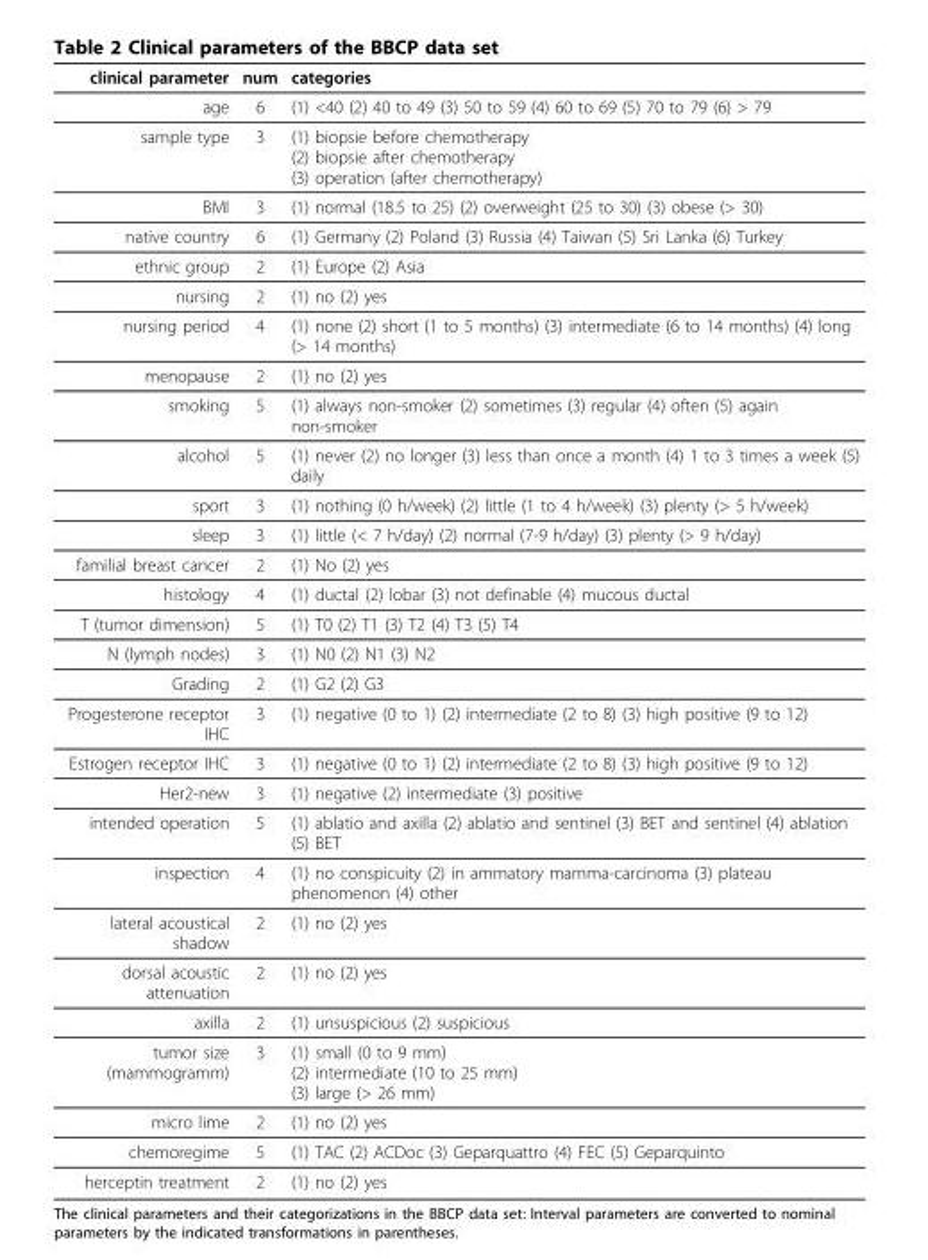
<table><thead><tr><td>clinical parameter</td><td>num</td><td>categories</td></tr></thead><tbody><tr><td>age</td><td>6</td><td>(1) &lt;40 (2) 40 to 49 (3) 50 to 59 (4) 60 to 69 (5) 70 to 79 (6) &gt; 79</td></tr><tr><td>sample type</td><td>3</td><td>(1) biopsie before chemotherapy (2) biopsie after chemotherapy (3) operation (after chemotherapy)</td></tr><tr><td>BMI</td><td>3</td><td>(1) normal (18.5 to 25) (2) overweight (25 to 30) (3) obese (&gt; 30)</td></tr><tr><td>native country</td><td>6</td><td>(1) Germany (2) Poland (3) Russia (4) Taiwan (5) Sri Lanka (6) Turkey</td></tr><tr><td>ethnic group</td><td>2</td><td>(1) Europe (2) Asia</td></tr><tr><td>nursing</td><td>2</td><td>(1) no (2) yes</td></tr><tr><td>nursing period</td><td>4</td><td>(1) none (2) short (1 to 5 months) (3) intermediate (6 to 14 months) (4) long (&gt; 14 months)</td></tr><tr><td>menopause</td><td>2</td><td>(1) no (2) yes</td></tr><tr><td>smoking</td><td>5</td><td>(1) always non-smoker (2) sometimes (3) regular (4) often (5) again non-smoker</td></tr><tr><td>alcohol</td><td>5</td><td>(1) never (2) no longer (3) less than once a month (4) 1 to 3 times a week (5) daily</td></tr><tr><td>sport</td><td>3</td><td>(1) nothing (0 h/week) (2) little (1 to 4 h/week) (3) plenty (&gt; 5 h/week)</td></tr><tr><td>sleep</td><td>3</td><td>(1) little (&lt; 7 h/day) (2) normal (7-9 h/day) (3) plenty (&gt; 9 h/day)</td></tr><tr><td>familial breast cancer</td><td>2</td><td>(1) No (2) yes</td></tr><tr><td>histology</td><td>4</td><td>(1) ductal (2) lobar (3) not definable (4) mucous ductal</td></tr><tr><td>T (tumor dimension)</td><td>5</td><td>(1) T0 (2) T1 (3) T2 (4) T3 (5) T4</td></tr><tr><td>N (lymph nodes)</td><td>3</td><td>(1) N0 (2) N1 (3) N2</td></tr><tr><td>Grading</td><td>2</td><td>(1) G2 (2) G3</td></tr><tr><td>Progesterone receptor IHC</td><td>3</td><td>(1) negative (0 to 1) (2) intermediate (2 to 8) (3) high positive (9 to 12)</td></tr><tr><td>Estrogen receptor IHC</td><td>3</td><td>(1) negative (0 to 1) (2) intermediate (2 to 8) (3) high positive (9 to 12)</td></tr><tr><td>Her2-new</td><td>3</td><td>(1) negative (2) intermediate (3) positive</td></tr><tr><td>intended operation</td><td>5</td><td>(1) ablatio and axilla (2) ablatio and sentinel (3) BET and sentinel (4) ablation (5) BET</td></tr><tr><td>inspection</td><td>4</td><td>(1) no conspicuity (2) in ammatory mamma-carcinoma (3) plateau phenomenon (4) other</td></tr><tr><td>lateral acoustical shadow</td><td>2</td><td>(1) no (2) yes</td></tr><tr><td>dorsal acoustic attenuation</td><td>2</td><td>(1) no (2) yes</td></tr><tr><td>axilla</td><td>2</td><td>(1) unsuspicious (2) suspicious</td></tr><tr><td>tumor size (mammogramm)</td><td>3</td><td>(1) small (0 to 9 mm) (2) intermediate (10 to 25 mm) (3) large (&gt; 26 mm)</td></tr><tr><td>micro lime</td><td>2</td><td>(1) no (2) yes</td></tr><tr><td>chemoregime</td><td>5</td><td>(1) TAC (2) ACDoc (3) Geparquattro (4) FEC (5) Geparquinto</td></tr><tr><td>herceptin treatment</td><td>2</td><td>(1) no (2) yes</td></tr></tbody></table>